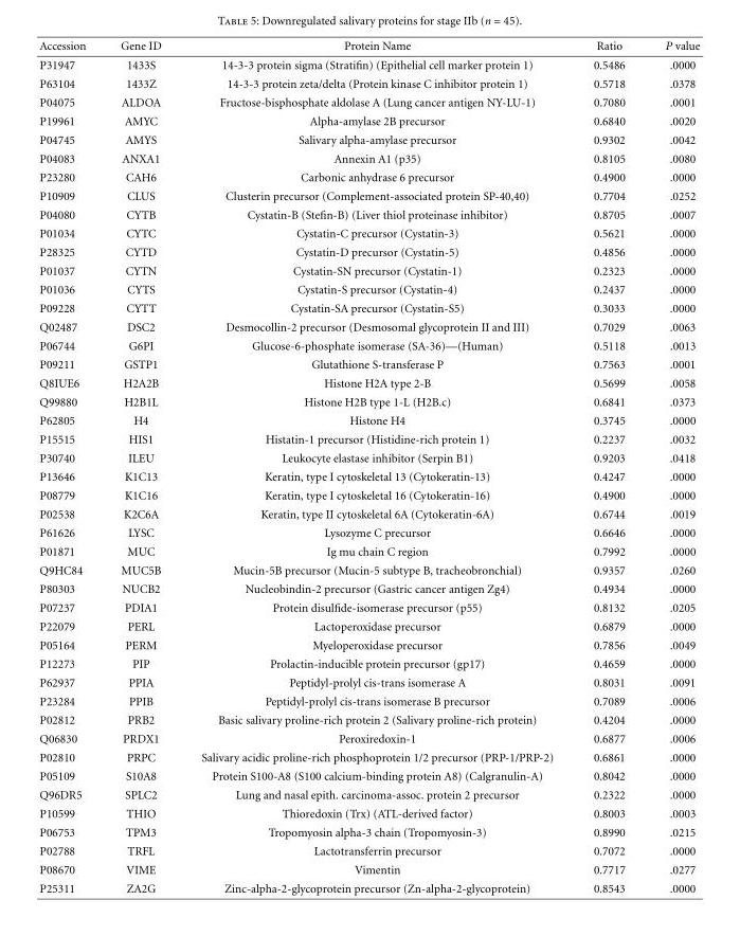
<table><thead><tr><td>Accession</td><td>Gene ID</td><td>Protein Name</td><td>Ratio</td><td>P value</td></tr></thead><tbody><tr><td>P31947</td><td>1433S</td><td>14-3-3 protein sigma (Stratifin) (Epithelial cell marker protein 1)</td><td>0.5486</td><td>.0000</td></tr><tr><td>P63104</td><td>1433Z</td><td>14-3-3 protein zeta/delta (Protein kinase C inhibitor protein 1)</td><td>0.5718</td><td>.0378</td></tr><tr><td>P04075</td><td>ALDOA</td><td>Fructose-bisphosphate aldolase A (Lung cancer antigen NY-LU-1)</td><td>0.7080</td><td>.0001</td></tr><tr><td>P19961</td><td>AMYC</td><td>Alpha-amylase 2B precursor</td><td>0.6840</td><td>.0020</td></tr><tr><td>P04745</td><td>AMYS</td><td>Salivary alpha-amylase precursor</td><td>0.9302</td><td>.0042</td></tr><tr><td>P04083</td><td>ANXA1</td><td>Annexin A1 (p35)</td><td>0.8105</td><td>.0080</td></tr><tr><td>P23280</td><td>CAH6</td><td>Carbonic anhydrase 6 precursor</td><td>0.4900</td><td>.0000</td></tr><tr><td>P10909</td><td>CLUS</td><td>Clusterin precursor (Complement-associated protein SP-40,40)</td><td>0.7704</td><td>.0252</td></tr><tr><td>P04080</td><td>CYTB</td><td>Cystatin-B (Stefin-B) (Liver thiol proteinase inhibitor)</td><td>0.8705</td><td>.0007</td></tr><tr><td>P01034</td><td>CYTC</td><td>Cystatin-C precursor (Cystatin-3)</td><td>0.5621</td><td>.0000</td></tr><tr><td>P28325</td><td>CYTD</td><td>Cystatin-D precursor (Cystatin-5)</td><td>0.4856</td><td>.0000</td></tr><tr><td>P01037</td><td>CYTN</td><td>Cystatin-SN precursor (Cystatin-1)</td><td>0.2323</td><td>.0000</td></tr><tr><td>P01036</td><td>CYTS</td><td>Cystatin-S precursor (Cystatin-4)</td><td>0.2437</td><td>.0000</td></tr><tr><td>P09228</td><td>CYTT</td><td>Cystatin-SA precursor (Cystatin-S5)</td><td>0.3033</td><td>.0000</td></tr><tr><td>Q02487</td><td>DSC2</td><td>Desmocollin-2 precursor (Desmosomal glycoprotein II and III)</td><td>0.7029</td><td>.0063</td></tr><tr><td>P06744</td><td>G6PI</td><td>Glucose-6-phosphate isomerase (SA-36)—(Human)</td><td>0.5118</td><td>.0013</td></tr><tr><td>P09211</td><td>GSTP1</td><td>Glutathione S-transferase P</td><td>0.7563</td><td>.0001</td></tr><tr><td>Q8IUE6</td><td>H2A2B</td><td>Histone H2A type 2-B</td><td>0.5699</td><td>.0058</td></tr><tr><td>Q99880</td><td>H2B1L</td><td>Histone H2B type 1-L (H2B.c)</td><td>0.6841</td><td>.0373</td></tr><tr><td>P62805</td><td>H4</td><td>Histone H4</td><td>0.3745</td><td>.0000</td></tr><tr><td>P15515</td><td>HIS1</td><td>Histatin-1 precursor (Histidine-rich protein 1)</td><td>0.2237</td><td>.0032</td></tr><tr><td>P30740</td><td>ILEU</td><td>Leukocyte elastase inhibitor (Serpin B1)</td><td>0.9203</td><td>.0418</td></tr><tr><td>P13646</td><td>K1C13</td><td>Keratin, type I cytoskeletal 13 (Cytokeratin-13)</td><td>0.4247</td><td>.0000</td></tr><tr><td>P08779</td><td>K1C16</td><td>Keratin, type I cytoskeletal 16 (Cytokeratin-16)</td><td>0.4900</td><td>.0000</td></tr><tr><td>P02538</td><td>K2C6A</td><td>Keratin, type II cytoskeletal 6A (Cytokeratin-6A)</td><td>0.6744</td><td>.0019</td></tr><tr><td>P61626</td><td>LYSC</td><td>Lysozyme C precursor</td><td>0.6646</td><td>.0000</td></tr><tr><td>P01871</td><td>MUC</td><td>Ig mu chain C region</td><td>0.7992</td><td>.0000</td></tr><tr><td>Q9HC84</td><td>MUC5B</td><td>Mucin-5B precursor (Mucin-5 subtype B, tracheobronchial)</td><td>0.9357</td><td>.0260</td></tr><tr><td>P80303</td><td>NUCB2</td><td>Nucleobindin-2 precursor (Gastric cancer antigen Zg4)</td><td>0.4934</td><td>.0000</td></tr><tr><td>P07237</td><td>PDIA1</td><td>Protein disulfide-isomerase precursor (p55)</td><td>0.8132</td><td>.0205</td></tr><tr><td>P22079</td><td>PERL</td><td>Lactoperoxidase precursor</td><td>0.6879</td><td>.0000</td></tr><tr><td>P05164</td><td>PERM</td><td>Myeloperoxidase precursor</td><td>0.7856</td><td>.0049</td></tr><tr><td>P12273</td><td>PIP</td><td>Prolactin-inducible protein precursor (gp17)</td><td>0.4659</td><td>.0000</td></tr><tr><td>P62937</td><td>PPIA</td><td>Peptidyl-prolyl cis-trans isomerase A</td><td>0.8031</td><td>.0091</td></tr><tr><td>P23284</td><td>PPIB</td><td>Peptidyl-prolyl cis-trans isomerase B precursor</td><td>0.7089</td><td>.0006</td></tr><tr><td>P02812</td><td>PRB2</td><td>Basic salivary proline-rich protein 2 (Salivary proline-rich protein)</td><td>0.4204</td><td>.0000</td></tr><tr><td>Q06830</td><td>PRDX1</td><td>Peroxiredoxin-1</td><td>0.6877</td><td>.0006</td></tr><tr><td>P02810</td><td>PRPC</td><td>Salivary acidic proline-rich phosphoprotein 1/2 precursor (PRP-1/PRP-2)</td><td>0.6861</td><td>.0000</td></tr><tr><td>P05109</td><td>S10A8</td><td>Protein S100-A8 (S100 calcium-binding protein A8) (Calgranulin-A)</td><td>0.8042</td><td>.0000</td></tr><tr><td>Q96DR5</td><td>SPLC2</td><td>Lung and nasal epith. carcinoma-assoc. protein 2 precursor</td><td>0.2322</td><td>.0000</td></tr><tr><td>P10599</td><td>THIO</td><td>Thioredoxin (Trx) (ATL-derived factor)</td><td>0.8003</td><td>.0003</td></tr><tr><td>P06753</td><td>TPM3</td><td>Tropomyosin alpha-3 chain (Tropomyosin-3)</td><td>0.8990</td><td>.0215</td></tr><tr><td>P02788</td><td>TRFL</td><td>Lactotransferrin precursor</td><td>0.7072</td><td>.0000</td></tr><tr><td>P08670</td><td>VIME</td><td>Vimentin</td><td>0.7717</td><td>.0277</td></tr><tr><td>P25311</td><td>ZA2G</td><td>Zinc-alpha-2-glycoprotein precursor (Zn-alpha-2-glycoprotein)</td><td>0.8543</td><td>.0000</td></tr></tbody></table>